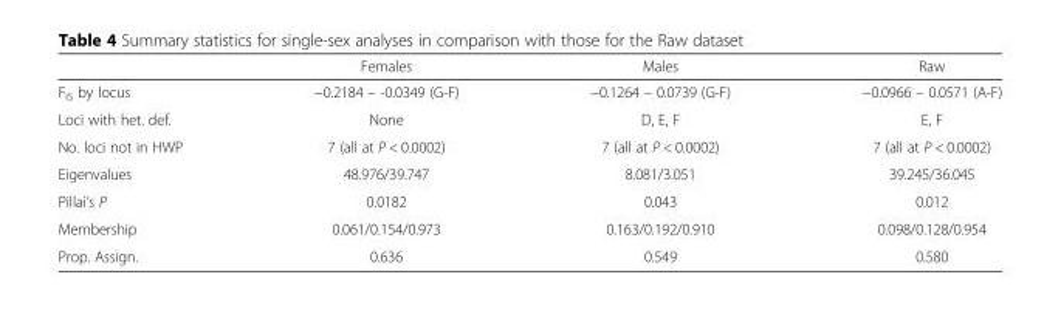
<table><thead><tr><td></td><td>Females</td><td>Males</td><td>Raw</td></tr></thead><tbody><tr><td>F<sub>IS</sub> by locus</td><td>−0.2184 – -0.0349 (G-F)</td><td>−0.1264 – 0.0739 (G-F)</td><td>−0.0966 – 0.0571 (A-F)</td></tr><tr><td>Loci with het. def.</td><td>None</td><td>D, E, F</td><td>E, F</td></tr><tr><td>No. loci not in HWP</td><td>7 (all at P &lt; 0.0002)</td><td>7 (all at P &lt; 0.0002)</td><td>7 (all at P &lt; 0.0002)</td></tr><tr><td>Eigenvalues</td><td>48.976/39.747</td><td>8.081/3.051</td><td>39.245/36.045</td></tr><tr><td>Pillai’s P</td><td>0.0182</td><td>0.043</td><td>0.012</td></tr><tr><td>Membership</td><td>0.061/0.154/0.973</td><td>0.163/0.192/0.910</td><td>0.098/0.128/0.954</td></tr><tr><td>Prop. Assign.</td><td>0.636</td><td>0.549</td><td>0.580</td></tr></tbody></table>